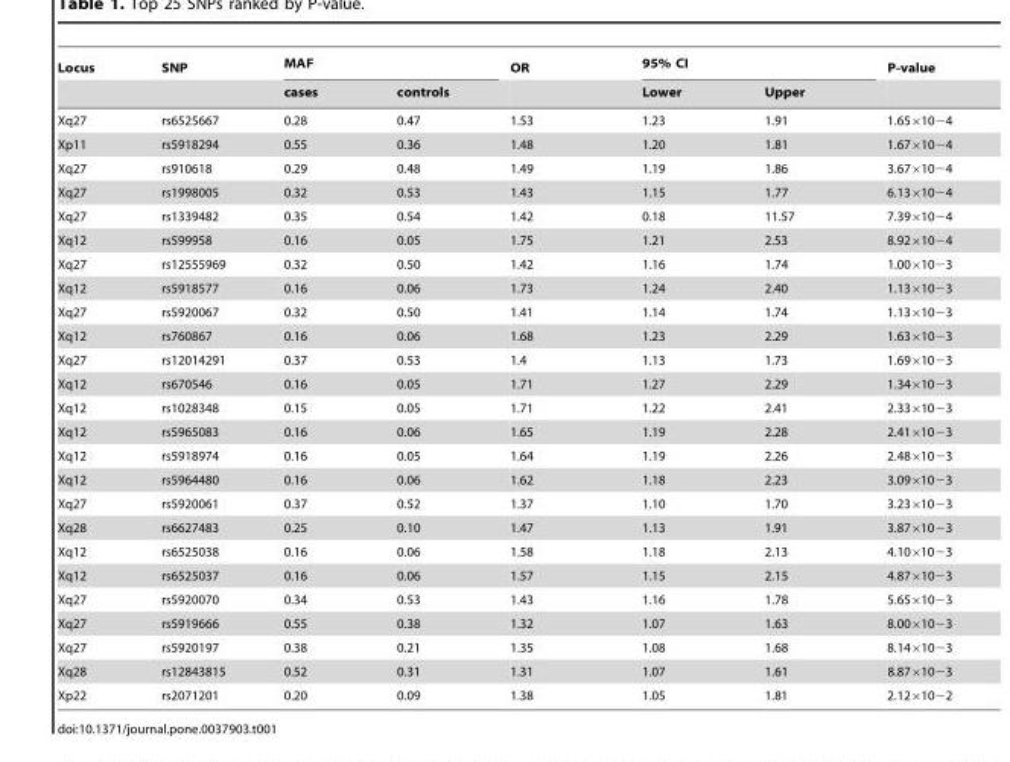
<table><thead><tr><td rowspan="2">Locus</td><td rowspan="2">SNP</td><td colspan="2">MAF</td><td rowspan="2">OR</td><td colspan="2">95% CI</td><td rowspan="2">P-value</td></tr><tr><td>cases</td><td>controls</td><td>Lower</td><td>Upper</td></tr></thead><tbody><tr><td>Xq27</td><td>rs6525667</td><td>0.28</td><td>0.47</td><td>1.53</td><td>1.23</td><td>1.91</td><td>1.65×10−4</td></tr><tr><td>Xp11</td><td>rs5918294</td><td>0.55</td><td>0.36</td><td>1.48</td><td>1.20</td><td>1.81</td><td>1.67×10−4</td></tr><tr><td>Xq27</td><td>rs910618</td><td>0.29</td><td>0.48</td><td>1.49</td><td>1.19</td><td>1.86</td><td>3.67×10−4</td></tr><tr><td>Xq27</td><td>rs1998005</td><td>0.32</td><td>0.53</td><td>1.43</td><td>1.15</td><td>1.77</td><td>6.13×10−4</td></tr><tr><td>Xq27</td><td>rs1339482</td><td>0.35</td><td>0.54</td><td>1.42</td><td>0.18</td><td>11.57</td><td>7.39×10−4</td></tr><tr><td>Xq12</td><td>rs599958</td><td>0.16</td><td>0.05</td><td>1.75</td><td>1.21</td><td>2.53</td><td>8.92×10−4</td></tr><tr><td>Xq27</td><td>rs12555969</td><td>0.32</td><td>0.50</td><td>1.42</td><td>1.16</td><td>1.74</td><td>1.00×10−3</td></tr><tr><td>Xq12</td><td>rs5918577</td><td>0.16</td><td>0.06</td><td>1.73</td><td>1.24</td><td>2.40</td><td>1.13×10−3</td></tr><tr><td>Xq27</td><td>rs5920067</td><td>0.32</td><td>0.50</td><td>1.41</td><td>1.14</td><td>1.74</td><td>1.13×10−3</td></tr><tr><td>Xq12</td><td>rs760867</td><td>0.16</td><td>0.06</td><td>1.68</td><td>1.23</td><td>2.29</td><td>1.63×10−3</td></tr><tr><td>Xq27</td><td>rs12014291</td><td>0.37</td><td>0.53</td><td>1.4</td><td>1.13</td><td>1.73</td><td>1.69×10−3</td></tr><tr><td>Xq12</td><td>rs670546</td><td>0.16</td><td>0.05</td><td>1.71</td><td>1.27</td><td>2.29</td><td>1.34×10−3</td></tr><tr><td>Xq12</td><td>rs1028348</td><td>0.15</td><td>0.05</td><td>1.71</td><td>1.22</td><td>2.41</td><td>2.33×10−3</td></tr><tr><td>Xq12</td><td>rs5965083</td><td>0.16</td><td>0.06</td><td>1.65</td><td>1.19</td><td>2.28</td><td>2.41×10−3</td></tr><tr><td>Xq12</td><td>rs5918974</td><td>0.16</td><td>0.05</td><td>1.64</td><td>1.19</td><td>2.26</td><td>2.48×10−3</td></tr><tr><td>Xq12</td><td>rs5964480</td><td>0.16</td><td>0.06</td><td>1.62</td><td>1.18</td><td>2.23</td><td>3.09×10−3</td></tr><tr><td>Xq27</td><td>rs5920061</td><td>0.37</td><td>0.52</td><td>1.37</td><td>1.10</td><td>1.70</td><td>3.23×10−3</td></tr><tr><td>Xq28</td><td>rs6627483</td><td>0.25</td><td>0.10</td><td>1.47</td><td>1.13</td><td>1.91</td><td>3.87×10−3</td></tr><tr><td>Xq12</td><td>rs6525038</td><td>0.16</td><td>0.06</td><td>1.58</td><td>1.18</td><td>2.13</td><td>4.10×10−3</td></tr><tr><td>Xq12</td><td>rs6525037</td><td>0.16</td><td>0.06</td><td>1.57</td><td>1.15</td><td>2.15</td><td>4.87×10−3</td></tr><tr><td>Xq27</td><td>rs5920070</td><td>0.34</td><td>0.53</td><td>1.43</td><td>1.16</td><td>1.78</td><td>5.65×10−3</td></tr><tr><td>Xq27</td><td>rs5919666</td><td>0.55</td><td>0.38</td><td>1.32</td><td>1.07</td><td>1.63</td><td>8.00×10−3</td></tr><tr><td>Xq27</td><td>rs5920197</td><td>0.38</td><td>0.21</td><td>1.35</td><td>1.08</td><td>1.68</td><td>8.14×10−3</td></tr><tr><td>Xq28</td><td>rs12843815</td><td>0.52</td><td>0.31</td><td>1.31</td><td>1.07</td><td>1.61</td><td>8.87×10−3</td></tr><tr><td>Xp22</td><td>rs2071201</td><td>0.20</td><td>0.09</td><td>1.38</td><td>1.05</td><td>1.81</td><td>2.12×10−2</td></tr></tbody></table>